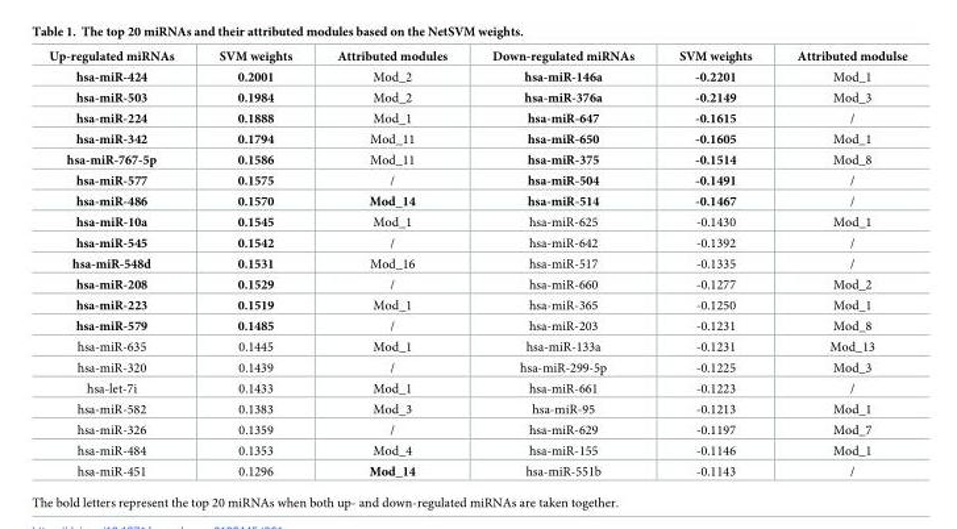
<table><thead><tr><td>Up-regulated miRNAs</td><td>SVM weights</td><td>Attributed modules</td><td>Down-regulated miRNAs</td><td>SVM weights</td><td>Attributed modulse</td></tr></thead><tbody><tr><td>hsa-miR-424</td><td>0.2001</td><td>Mod_2</td><td>hsa-miR-146a</td><td>-0.2201</td><td>Mod_1</td></tr><tr><td>hsa-miR-503</td><td>0.1984</td><td>Mod_2</td><td>hsa-miR-376a</td><td>-0.2149</td><td>Mod_3</td></tr><tr><td>hsa-miR-224</td><td>0.1888</td><td>Mod_1</td><td>hsa-miR-647</td><td>-0.1615</td><td>/</td></tr><tr><td>hsa-miR-342</td><td>0.1794</td><td>Mod_11</td><td>hsa-miR-650</td><td>-0.1605</td><td>Mod_1</td></tr><tr><td>hsa-miR-767-5p</td><td>0.1586</td><td>Mod_11</td><td>hsa-miR-375</td><td>-0.1514</td><td>Mod_8</td></tr><tr><td>hsa-miR-577</td><td>0.1575</td><td>/</td><td>hsa-miR-504</td><td>-0.1491</td><td>/</td></tr><tr><td>hsa-miR-486</td><td>0.1570</td><td>Mod_14</td><td>hsa-miR-514</td><td>-0.1467</td><td>/</td></tr><tr><td>hsa-miR-10a</td><td>0.1545</td><td>Mod_1</td><td>hsa-miR-625</td><td>-0.1430</td><td>Mod_1</td></tr><tr><td>hsa-miR-545</td><td>0.1542</td><td>/</td><td>hsa-miR-642</td><td>-0.1392</td><td>/</td></tr><tr><td>hsa-miR-548d</td><td>0.1531</td><td>Mod_16</td><td>hsa-miR-517</td><td>-0.1335</td><td>/</td></tr><tr><td>hsa-miR-208</td><td>0.1529</td><td>/</td><td>hsa-miR-660</td><td>-0.1277</td><td>Mod_2</td></tr><tr><td>hsa-miR-223</td><td>0.1519</td><td>Mod_1</td><td>hsa-miR-365</td><td>-0.1250</td><td>Mod_1</td></tr><tr><td>hsa-miR-579</td><td>0.1485</td><td>/</td><td>hsa-miR-203</td><td>-0.1231</td><td>Mod_8</td></tr><tr><td>hsa-miR-635</td><td>0.1445</td><td>Mod_1</td><td>hsa-miR-133a</td><td>-0.1231</td><td>Mod_13</td></tr><tr><td>hsa-miR-320</td><td>0.1439</td><td>/</td><td>hsa-miR-299-5p</td><td>-0.1225</td><td>Mod_3</td></tr><tr><td>hsa-let-7i</td><td>0.1433</td><td>Mod_1</td><td>hsa-miR-661</td><td>-0.1223</td><td>/</td></tr><tr><td>hsa-miR-582</td><td>0.1383</td><td>Mod_3</td><td>hsa-miR-95</td><td>-0.1213</td><td>Mod_1</td></tr><tr><td>hsa-miR-326</td><td>0.1359</td><td>/</td><td>hsa-miR-629</td><td>-0.1197</td><td>Mod_7</td></tr><tr><td>hsa-miR-484</td><td>0.1353</td><td>Mod_4</td><td>hsa-miR-155</td><td>-0.1146</td><td>Mod_1</td></tr><tr><td>hsa-miR-451</td><td>0.1296</td><td>Mod_14</td><td>hsa-miR-551b</td><td>-0.1143</td><td>/</td></tr></tbody></table>